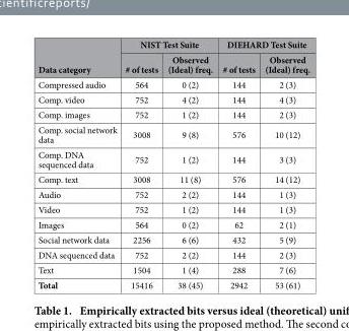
<table><thead><tr><td rowspan="2">Data category</td><td colspan="2">NIST Test Suite</td><td colspan="2">DIEHARD Test Suite</td></tr><tr><td># of tests</td><td>Observed (Ideal) freq.</td><td># of tests</td><td>Observed (Ideal) freq.</td></tr></thead><tbody><tr><td>Compressed audio</td><td>564</td><td>0 (2)</td><td>144</td><td>2 (3)</td></tr><tr><td>Comp. video</td><td>752</td><td>4 (2)</td><td>144</td><td>4 (3)</td></tr><tr><td>Comp. images</td><td>752</td><td>1 (2)</td><td>144</td><td>2 (3)</td></tr><tr><td>Comp. social network data</td><td>3008</td><td>9 (8)</td><td>576</td><td>10 (12)</td></tr><tr><td>Comp. DNA sequenced data</td><td>752</td><td>1 (2)</td><td>144</td><td>3 (3)</td></tr><tr><td>Comp. text</td><td>3008</td><td>11 (8)</td><td>576</td><td>14 (12)</td></tr><tr><td>Audio</td><td>752</td><td>2 (2)</td><td>144</td><td>1 (3)</td></tr><tr><td>Video</td><td>752</td><td>1 (2)</td><td>144</td><td>1 (3)</td></tr><tr><td>Images</td><td>564</td><td>0 (2)</td><td>62</td><td>2 (1)</td></tr><tr><td>Social network data</td><td>2256</td><td>6 (6)</td><td>432</td><td>5 (9)</td></tr><tr><td>DNA sequenced data</td><td>752</td><td>2 (2)</td><td>144</td><td>2 (3)</td></tr><tr><td>Text</td><td>1504</td><td>1 (4)</td><td>288</td><td>7 (6)</td></tr><tr><td>Total</td><td>15416</td><td>38 (45)</td><td>2942</td><td>53 (61)</td></tr></tbody></table>